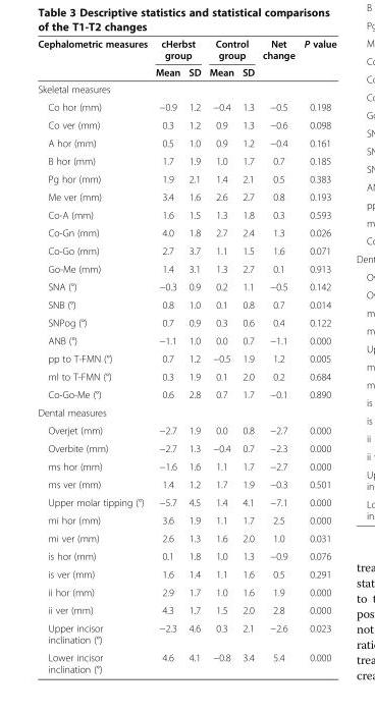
<table><thead><tr><td rowspan="2">Cephalometric measures</td><td colspan="2">cHerbst group</td><td colspan="2">Control group</td><td rowspan="2">Net change</td><td rowspan="2">P value</td></tr><tr><td>Mean</td><td>SD</td><td>Mean</td><td>SD</td></tr></thead><tbody><tr><td colspan="7">Skeletal measures</td></tr><tr><td>Co hor (mm)</td><td>−0.9</td><td>1.2</td><td>−0.4</td><td>1.3</td><td>−0.5</td><td>0.198</td></tr><tr><td>Co ver (mm)</td><td>0.3</td><td>1.2</td><td>0.9</td><td>1.3</td><td>−0.6</td><td>0.098</td></tr><tr><td>A hor (mm)</td><td>0.5</td><td>1.0</td><td>0.9</td><td>1.2</td><td>−0.4</td><td>0.161</td></tr><tr><td>B hor (mm)</td><td>1.7</td><td>1.9</td><td>1.0</td><td>1.7</td><td>0.7</td><td>0.185</td></tr><tr><td>Pg hor (mm)</td><td>1.9</td><td>2.1</td><td>1.4</td><td>2.1</td><td>0.5</td><td>0.383</td></tr><tr><td>Me ver (mm)</td><td>3.4</td><td>1.6</td><td>2.6</td><td>2.7</td><td>0.8</td><td>0.193</td></tr><tr><td>Co-A (mm)</td><td>1.6</td><td>1.5</td><td>1.3</td><td>1.8</td><td>0.3</td><td>0.593</td></tr><tr><td>Co-Gn (mm)</td><td>4.0</td><td>1.8</td><td>2.7</td><td>2.4</td><td>1.3</td><td>0.026</td></tr><tr><td>Co-Go (mm)</td><td>2.7</td><td>3.7</td><td>1.1</td><td>1.5</td><td>1.6</td><td>0.071</td></tr><tr><td>Go-Me (mm)</td><td>1.4</td><td>3.1</td><td>1.3</td><td>2.7</td><td>0.1</td><td>0.913</td></tr><tr><td>SNA (°)</td><td>−0.3</td><td>0.9</td><td>0.2</td><td>1.1</td><td>−0.5</td><td>0.142</td></tr><tr><td>SNB (°)</td><td>0.8</td><td>1.0</td><td>0.1</td><td>0.8</td><td>0.7</td><td>0.014</td></tr><tr><td>SNPog (°)</td><td>0.7</td><td>0.9</td><td>0.3</td><td>0.6</td><td>0.4</td><td>0.122</td></tr><tr><td>ANB (°)</td><td>−1.1</td><td>1.0</td><td>0.0</td><td>0.7</td><td>−1.1</td><td>0.000</td></tr><tr><td>pp to T-FMN (°)</td><td>0.7</td><td>1.2</td><td>−0.5</td><td>1.9</td><td>1.2</td><td>0.005</td></tr><tr><td>ml to T-FMN (°)</td><td>0.3</td><td>1.9</td><td>0.1</td><td>2.0</td><td>0.2</td><td>0.684</td></tr><tr><td>Co-Go-Me (°)</td><td>0.6</td><td>2.8</td><td>0.7</td><td>1.7</td><td>−0.1</td><td>0.890</td></tr><tr><td colspan="7">Dental measures</td></tr><tr><td>Overjet (mm)</td><td>−2.7</td><td>1.9</td><td>0.0</td><td>0.8</td><td>−2.7</td><td>0.000</td></tr><tr><td>Overbite (mm)</td><td>−2.7</td><td>1.3</td><td>−0.4</td><td>0.7</td><td>−2.3</td><td>0.000</td></tr><tr><td>ms hor (mm)</td><td>−1.6</td><td>1.6</td><td>1.1</td><td>1.7</td><td>−2.7</td><td>0.000</td></tr><tr><td>ms ver (mm)</td><td>1.4</td><td>1.2</td><td>1.7</td><td>1.9</td><td>−0.3</td><td>0.501</td></tr><tr><td>Upper molar tipping (°)</td><td>−5.7</td><td>4.5</td><td>1.4</td><td>4.1</td><td>−7.1</td><td>0.000</td></tr><tr><td>mi hor (mm)</td><td>3.6</td><td>1.9</td><td>1.1</td><td>1.7</td><td>2.5</td><td>0.000</td></tr><tr><td>mi ver (mm)</td><td>2.6</td><td>1.3</td><td>1.6</td><td>2.0</td><td>1.0</td><td>0.031</td></tr><tr><td>is hor (mm)</td><td>0.1</td><td>1.8</td><td>1.0</td><td>1.3</td><td>−0.9</td><td>0.076</td></tr><tr><td>is ver (mm)</td><td>1.6</td><td>1.4</td><td>1.1</td><td>1.6</td><td>0.5</td><td>0.291</td></tr><tr><td>ii hor (mm)</td><td>2.9</td><td>1.7</td><td>1.0</td><td>1.6</td><td>1.9</td><td>0.000</td></tr><tr><td>ii ver (mm)</td><td>4.3</td><td>1.7</td><td>1.5</td><td>2.0</td><td>2.8</td><td>0.000</td></tr><tr><td>Upper incisor inclination (°)</td><td>−2.3</td><td>4.6</td><td>0.3</td><td>2.1</td><td>−2.6</td><td>0.023</td></tr><tr><td>Lower incisor inclination (°)</td><td>4.6</td><td>4.1</td><td>−0.8</td><td>3.4</td><td>5.4</td><td>0.000</td></tr></tbody></table>